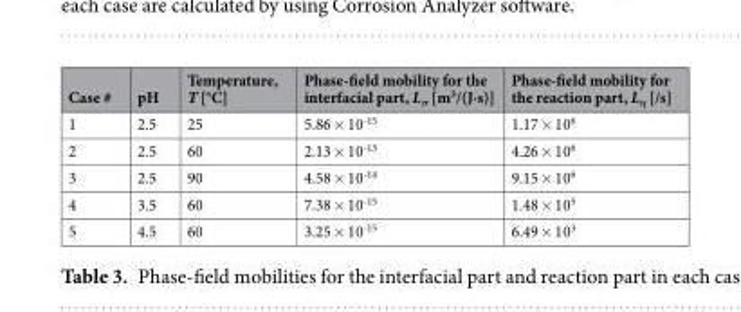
<table><thead><tr><td>Case #</td><td>pH</td><td>Temperature, T [°C]</td><td>Phase-field mobility for the interfacial part, L<sub>σ</sub> [m<sup>3</sup>/(J·s)]</td><td>Phase-field mobility for the reaction part, L<sub>η</sub> [/s]</td></tr></thead><tbody><tr><td>1</td><td>2.5</td><td>25</td><td>5.86 × 10<sup>-15</sup></td><td>1.17 × 10<sup>6</sup></td></tr><tr><td>2</td><td>2.5</td><td>60</td><td>2.13 × 10<sup>-13</sup></td><td>4.26 × 10<sup>6</sup></td></tr><tr><td>3</td><td>2.5</td><td>90</td><td>4.58 × 10<sup>-14</sup></td><td>9.15 × 10<sup>6</sup></td></tr><tr><td>4</td><td>3.5</td><td>60</td><td>7.38 × 10<sup>-15</sup></td><td>1.48 × 10<sup>5</sup></td></tr><tr><td>5</td><td>4.5</td><td>60</td><td>3.25 × 10<sup>-15</sup></td><td>6.49 × 10<sup>3</sup></td></tr></tbody></table>